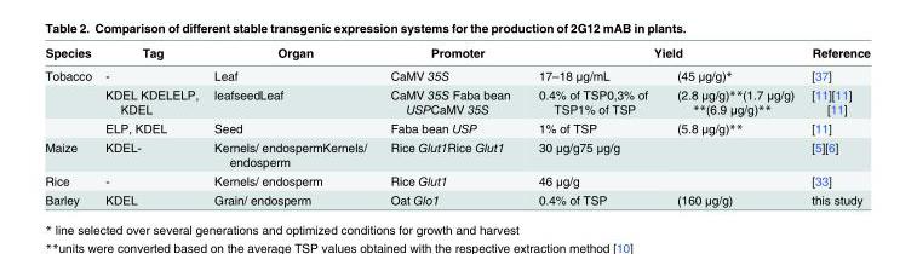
<table><thead><tr><td rowspan="2">Species Tobacco</td><td rowspan="2">Tag -</td><td rowspan="2">Organ Leaf</td><td rowspan="2">Promoter CaMV 35S</td><td colspan="2">Yield</td><td rowspan="2">Reference [37]</td></tr><tr><td>17–18 μg/mL</td><td>(45 μg/g)*</td></tr></thead><tbody><tr><td></td><td>KDEL KDELELP, KDEL</td><td>leafseedLeaf</td><td>CaMV 35S Faba bean USPCaMV 35S</td><td>0.4% of TSP0,3% of TSP1% of TSP</td><td>(2.8 μg/g)**(1.7 μg/g) **(6.9 μg/g)**</td><td>[11][11] [11]</td></tr><tr><td></td><td>ELP, KDEL</td><td>Seed</td><td>Faba bean USP</td><td>1% of TSP</td><td>(5.8 μg/g)**</td><td>[11]</td></tr><tr><td>Maize</td><td>KDEL-</td><td>Kernels/ endospermKernels/ endosperm</td><td>Rice Glut1Rice Glut1</td><td>30 μg/g75 μg/g</td><td></td><td>[5][6]</td></tr><tr><td>Rice</td><td>-</td><td>Kernels/ endosperm</td><td>Rice Glut1</td><td>46 μg/g</td><td></td><td>[33]</td></tr><tr><td>Barley</td><td>KDEL</td><td>Grain/ endosperm</td><td>Oat Glo1</td><td>0.4% of TSP</td><td>(160 μg/g)</td><td>this study</td></tr></tbody></table>